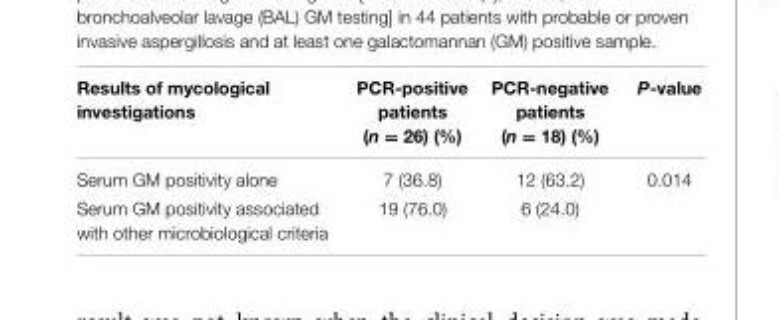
<table><thead><tr><td>Results of mycological investigations</td><td>PCR-positive patients (n = 26) (%)</td><td>PCR-negative patients (n = 18) (%)</td><td>P-value</td></tr></thead><tbody><tr><td>Serum GM positivity alone</td><td>7 (36.8)</td><td>12 (63.2)</td><td>0.014</td></tr><tr><td>Serum GM positivity associated with other microbiological criteria</td><td>19 (76.0)</td><td>6 (24.0)</td><td></td></tr></tbody></table>